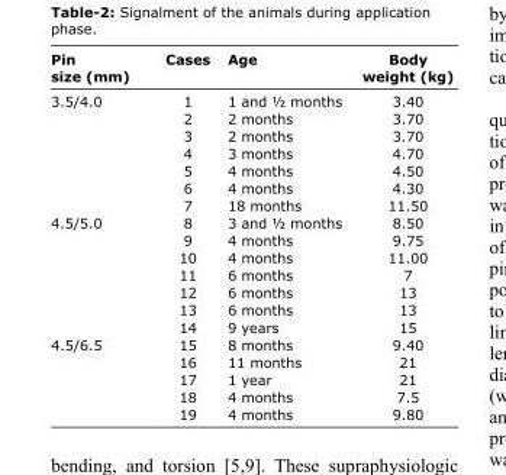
<table><thead><tr><td>Pin size (mm)</td><td>Cases</td><td>Age</td><td>Body weight (kg)</td></tr></thead><tbody><tr><td rowspan="7">3.5/4.0</td><td>1</td><td>1 and ½ months</td><td>3.40</td></tr><tr><td>2</td><td>2 months</td><td>3.70</td></tr><tr><td>3</td><td>2 months</td><td>3.70</td></tr><tr><td>4</td><td>3 months</td><td>4.70</td></tr><tr><td>5</td><td>4 months</td><td>4.50</td></tr><tr><td>6</td><td>4 months</td><td>4.30</td></tr><tr><td>7</td><td>18 months</td><td>11.50</td></tr><tr><td rowspan="7">4.5/5.0</td><td>8</td><td>3 and ½ months</td><td>8.50</td></tr><tr><td>9</td><td>4 months</td><td>9.75</td></tr><tr><td>10</td><td>4 months</td><td>11.00</td></tr><tr><td>11</td><td>6 months</td><td>7</td></tr><tr><td>12</td><td>6 months</td><td>13</td></tr><tr><td>13</td><td>6 months</td><td>13</td></tr><tr><td>14</td><td>9 years</td><td>15</td></tr><tr><td rowspan="5">4.5/6.5</td><td>15</td><td>8 months</td><td>9.40</td></tr><tr><td>16</td><td>11 months</td><td>21</td></tr><tr><td>17</td><td>1 year</td><td>21</td></tr><tr><td>18</td><td>4 months</td><td>7.5</td></tr><tr><td>19</td><td>4 months</td><td>9.80</td></tr></tbody></table>